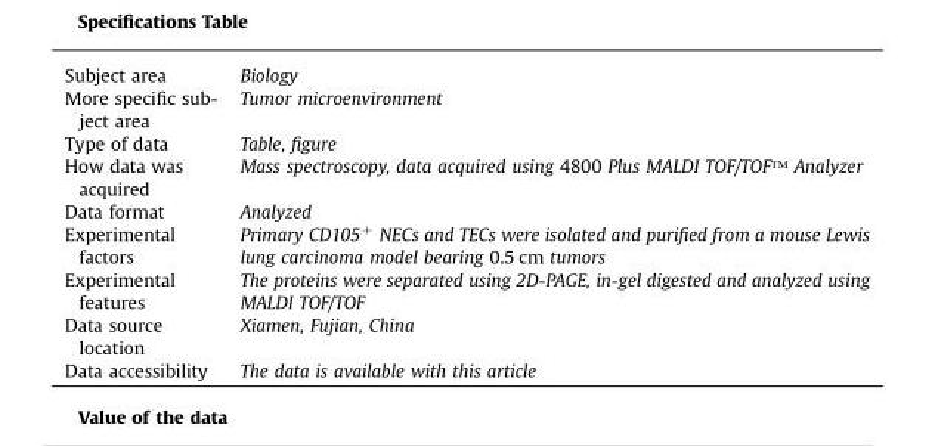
<table><tbody><tr><td>Subject area</td><td>Biology</td></tr><tr><td>More specific sub- ject area</td><td>Tumor microenvironment</td></tr><tr><td>Type of data</td><td>Table, figure</td></tr><tr><td>How data was acquired</td><td>Mass spectroscopy, data acquired using 4800 Plus MALDI TOF/TOF™ Analyzer</td></tr><tr><td>Data format</td><td>Analyzed</td></tr><tr><td>Experimental factors</td><td>Primary CD105<sup>+</sup> NECs and TECs were isolated and purified from a mouse Lewis lung carcinoma model bearing 0.5 cm tumors</td></tr><tr><td>Experimental features</td><td>The proteins were separated using 2D-PAGE, in-gel digested and analyzed using MALDI TOF/TOF</td></tr><tr><td>Data source location</td><td>Xiamen, Fujian, China</td></tr><tr><td>Data accessibility</td><td>The data is available with this article</td></tr></tbody></table>